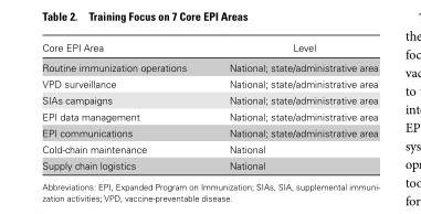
<table><thead><tr><td>Core EPI Area</td><td>Level</td></tr></thead><tbody><tr><td>Routine immunization operations</td><td>National; state/administrative area</td></tr><tr><td>VPD surveillance</td><td>National; state/administrative area</td></tr><tr><td>SIAs campaigns</td><td>National; state/administrative area</td></tr><tr><td>EPI data management</td><td>National; state/administrative area</td></tr><tr><td>EPI communications</td><td>National; state/administrative area</td></tr><tr><td>Cold-chain maintenance</td><td>National</td></tr><tr><td>Supply chain logistics</td><td>National</td></tr></tbody></table>